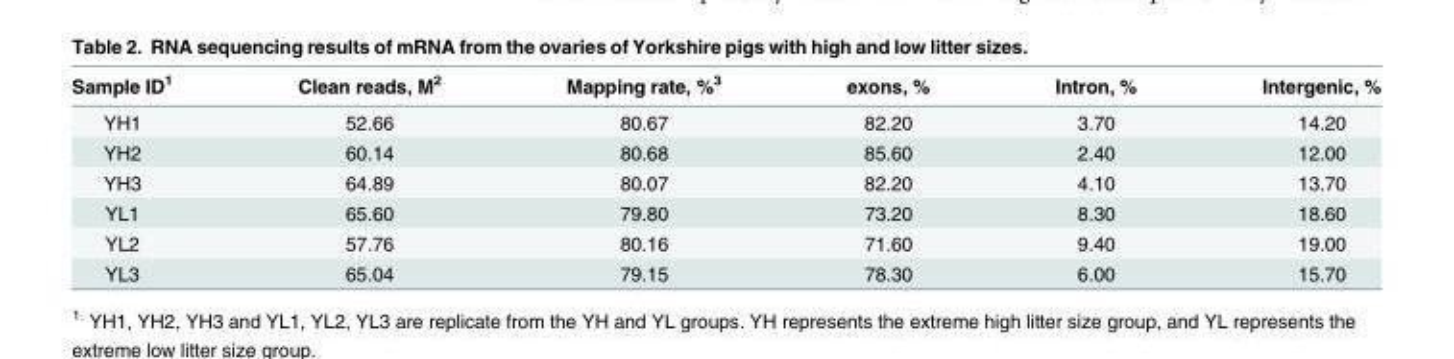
<table><thead><tr><td>Sample ID<sup>1</sup></td><td>Clean reads, M<sup>2</sup></td><td>Mapping rate, %<sup>3</sup></td><td>exons, %</td><td>Intron, %</td><td>Intergenic, %</td></tr></thead><tbody><tr><td>YH1</td><td>52.66</td><td>80.67</td><td>82.20</td><td>3.70</td><td>14.20</td></tr><tr><td>YH2</td><td>60.14</td><td>80.68</td><td>85.60</td><td>2.40</td><td>12.00</td></tr><tr><td>YH3</td><td>64.89</td><td>80.07</td><td>82.20</td><td>4.10</td><td>13.70</td></tr><tr><td>YL1</td><td>65.60</td><td>79.80</td><td>73.20</td><td>8.30</td><td>18.60</td></tr><tr><td>YL2</td><td>57.76</td><td>80.16</td><td>71.60</td><td>9.40</td><td>19.00</td></tr><tr><td>YL3</td><td>65.04</td><td>79.15</td><td>78.30</td><td>6.00</td><td>15.70</td></tr></tbody></table>